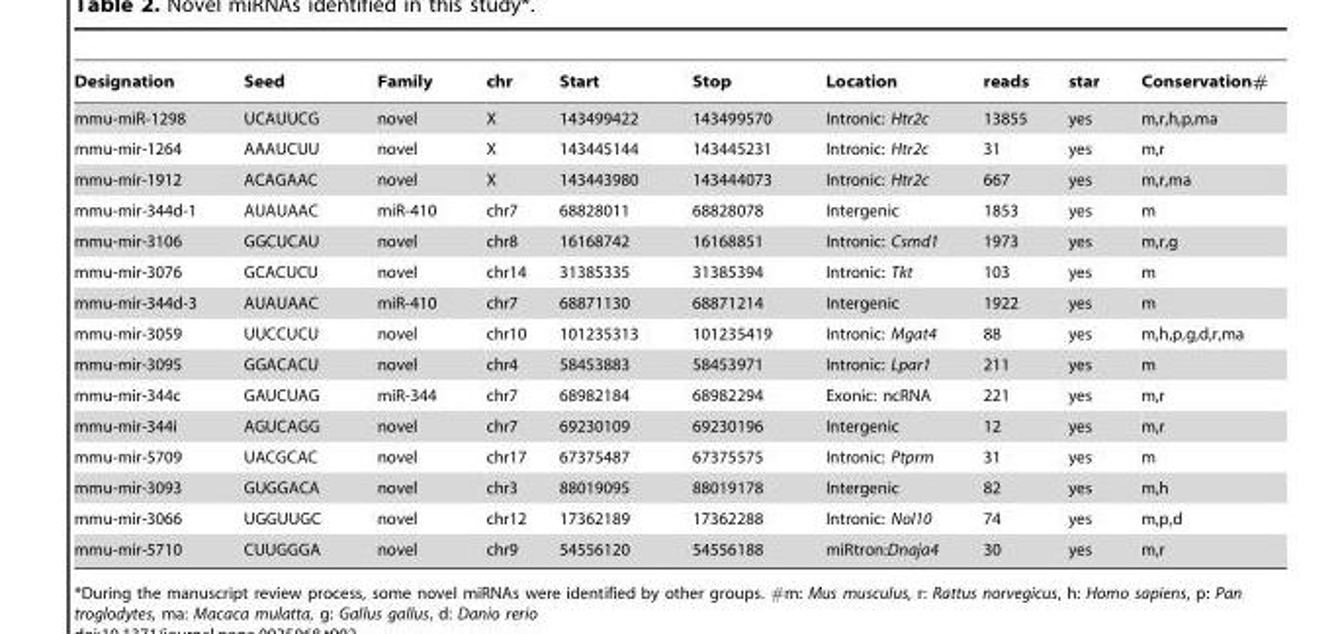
<table><thead><tr><td>Designation</td><td>Seed</td><td>Family</td><td>chr</td><td>Start</td><td>Stop</td><td>Location</td><td>reads</td><td>star</td><td>Conservation#</td></tr></thead><tbody><tr><td>mmu-miR-1298</td><td>UCAUUCG</td><td>novel</td><td>X</td><td>143499422</td><td>143499570</td><td>Intronic: Htr2c</td><td>13855</td><td>yes</td><td>m,r,h,p,ma</td></tr><tr><td>mmu-mir-1264</td><td>AAAUCUU</td><td>novel</td><td>X</td><td>143445144</td><td>143445231</td><td>Intronic: Htr2c</td><td>31</td><td>yes</td><td>m,r</td></tr><tr><td>mmu-mir-1912</td><td>ACAGAAC</td><td>novel</td><td>X</td><td>143443980</td><td>143444073</td><td>Intronic: Htr2c</td><td>667</td><td>yes</td><td>m,r,ma</td></tr><tr><td>mmu-mir-344d-1</td><td>AUAUAAC</td><td>miR-410</td><td>chr7</td><td>68828011</td><td>68828078</td><td>Intergenic</td><td>1853</td><td>yes</td><td>m</td></tr><tr><td>mmu-mir-3106</td><td>GGCUCAU</td><td>novel</td><td>chr8</td><td>16168742</td><td>16168851</td><td>Intronic: Csmd1</td><td>1973</td><td>yes</td><td>m,r,g</td></tr><tr><td>mmu-mir-3076</td><td>GCACUCU</td><td>novel</td><td>chr14</td><td>31385335</td><td>31385394</td><td>Intronic: Tkt</td><td>103</td><td>yes</td><td>m</td></tr><tr><td>mmu-mir-344d-3</td><td>AUAUAAC</td><td>miR-410</td><td>chr7</td><td>68871130</td><td>68871214</td><td>Intergenic</td><td>1922</td><td>yes</td><td>m</td></tr><tr><td>mmu-mir-3059</td><td>UUCCUCU</td><td>novel</td><td>chr10</td><td>101235313</td><td>101235419</td><td>Intronic: Mgat4</td><td>88</td><td>yes</td><td>m,h,p,g,d,r,ma</td></tr><tr><td>mmu-mir-3095</td><td>GGACACU</td><td>novel</td><td>chr4</td><td>58453883</td><td>58453971</td><td>Intronic: Lpar1</td><td>211</td><td>yes</td><td>m</td></tr><tr><td>mmu-mir-344c</td><td>GAUCUAG</td><td>miR-344</td><td>chr7</td><td>68982184</td><td>68982294</td><td>Exonic: ncRNA</td><td>221</td><td>yes</td><td>m,r</td></tr><tr><td>mmu-mir-344i</td><td>AGUCAGG</td><td>novel</td><td>chr7</td><td>69230109</td><td>69230196</td><td>Intergenic</td><td>12</td><td>yes</td><td>m,r</td></tr><tr><td>mmu-mir-5709</td><td>UACGCAC</td><td>novel</td><td>chr17</td><td>67375487</td><td>67375575</td><td>Intronic: Ptprm</td><td>31</td><td>yes</td><td>m</td></tr><tr><td>mmu-mir-3093</td><td>GUGGACA</td><td>novel</td><td>chr3</td><td>88019095</td><td>88019178</td><td>Intergenic</td><td>82</td><td>yes</td><td>m,h</td></tr><tr><td>mmu-mir-3066</td><td>UGGUUGC</td><td>novel</td><td>chr12</td><td>17362189</td><td>17362288</td><td>Intronic: Nol10</td><td>74</td><td>yes</td><td>m,p,d</td></tr><tr><td>mmu-mir-5710</td><td>CUUGGGA</td><td>novel</td><td>chr9</td><td>54556120</td><td>54556188</td><td>miRtron:Dnaja4</td><td>30</td><td>yes</td><td>m,r</td></tr></tbody></table>